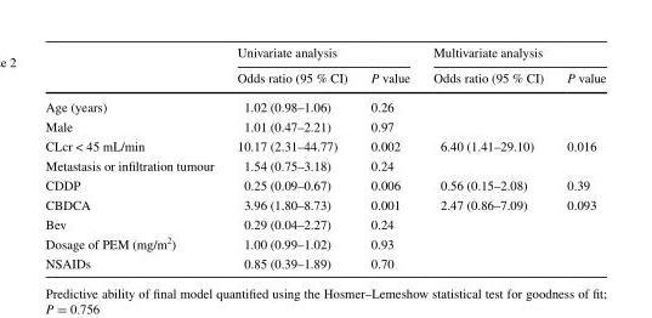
<table><thead><tr><td rowspan="2"></td><td colspan="2">Univariate analysis</td><td colspan="2">Multivariate analysis</td></tr><tr><td>Odds ratio (95 % CI)</td><td>P value</td><td>Odds ratio (95 % CI)</td><td>P value</td></tr></thead><tbody><tr><td>Age (years)</td><td>1.02 (0.98–1.06)</td><td>0.26</td><td></td><td></td></tr><tr><td>Male</td><td>1.01 (0.47–2.21)</td><td>0.97</td><td></td><td></td></tr><tr><td>CLcr &lt; 45 mL/min</td><td>10.17 (2.31–44.77)</td><td>0.002</td><td>6.40 (1.41–29.10)</td><td>0.016</td></tr><tr><td>Metastasis or infiltration tumour</td><td>1.54 (0.75–3.18)</td><td>0.24</td><td></td><td></td></tr><tr><td>CDDP</td><td>0.25 (0.09–0.67)</td><td>0.006</td><td>0.56 (0.15–2.08)</td><td>0.39</td></tr><tr><td>CBDCA</td><td>3.96 (1.80–8.73)</td><td>0.001</td><td>2.47 (0.86–7.09)</td><td>0.093</td></tr><tr><td>Bev</td><td>0.29 (0.04–2.27)</td><td>0.24</td><td></td><td></td></tr><tr><td>Dosage of PEM (mg/m<sup>2</sup>)</td><td>1.00 (0.99–1.02)</td><td>0.93</td><td></td><td></td></tr><tr><td>NSAIDs</td><td>0.85 (0.39–1.89)</td><td>0.70</td><td></td><td></td></tr></tbody></table>